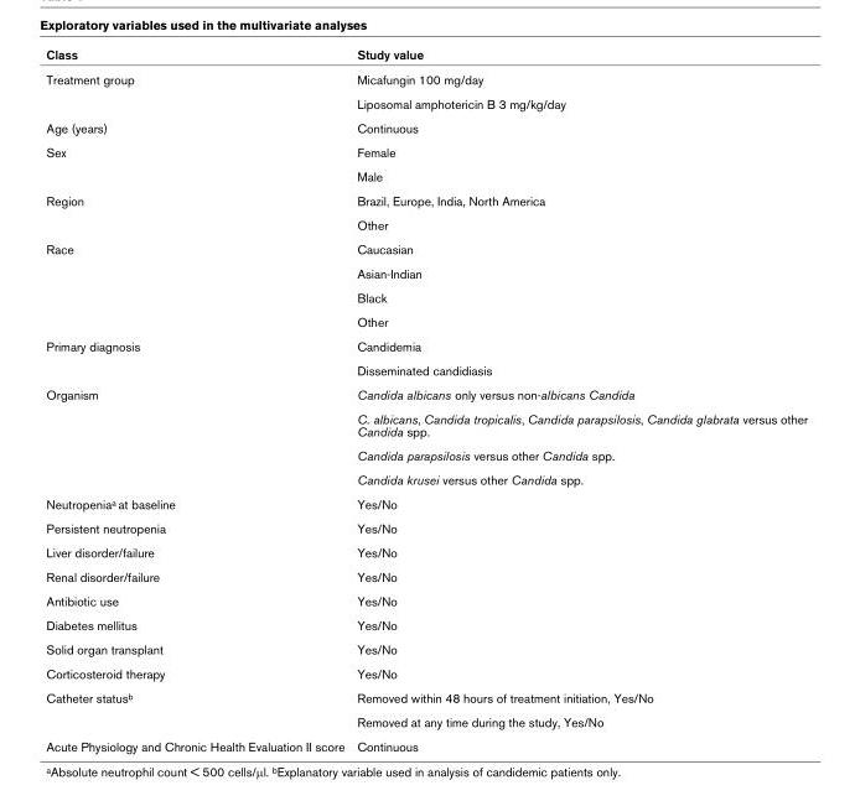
<table><thead><tr><td>Class</td><td>Study value</td></tr></thead><tbody><tr><td rowspan="2">Treatment group</td><td>Micafungin 100 mg/day</td></tr><tr><td>Liposomal amphotericin B 3 mg/kg/day</td></tr><tr><td>Age (years)</td><td>Continuous</td></tr><tr><td rowspan="2">Sex</td><td>Female</td></tr><tr><td>Male</td></tr><tr><td rowspan="2">Region</td><td>Brazil, Europe, India, North America</td></tr><tr><td>Other</td></tr><tr><td rowspan="4">Race</td><td>Caucasian</td></tr><tr><td>Asian-Indian</td></tr><tr><td>Black</td></tr><tr><td>Other</td></tr><tr><td rowspan="2">Primary diagnosis</td><td>Candidemia</td></tr><tr><td>Disseminated candidiasis</td></tr><tr><td rowspan="4">Organism</td><td>Candida albicans only versus non-albicans Candida</td></tr><tr><td>C. albicans, Candida tropicalis, Candida parapsilosis, Candida glabrata versus other Candida spp.</td></tr><tr><td>Candida parapsilosis versus other Candida spp.</td></tr><tr><td>Candida krusei versus other Candida spp.</td></tr><tr><td>Neutropenia<sup>a</sup> at baseline</td><td>Yes/No</td></tr><tr><td>Persistent neutropenia</td><td>Yes/No</td></tr><tr><td>Liver disorder/failure</td><td>Yes/No</td></tr><tr><td>Renal disorder/failure</td><td>Yes/No</td></tr><tr><td>Antibiotic use</td><td>Yes/No</td></tr><tr><td>Diabetes mellitus</td><td>Yes/No</td></tr><tr><td>Solid organ transplant</td><td>Yes/No</td></tr><tr><td>Corticosteroid therapy</td><td>Yes/No</td></tr><tr><td rowspan="2">Catheter status<sup>b</sup></td><td>Removed within 48 hours of treatment initiation, Yes/No</td></tr><tr><td>Removed at any time during the study, Yes/No</td></tr><tr><td>Acute Physiology and Chronic Health Evaluation II score</td><td>Continuous</td></tr></tbody></table>